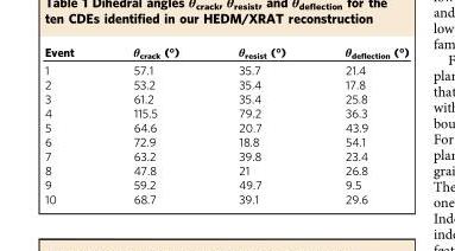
<table><thead><tr><td>Event</td><td>θ<sub>crack</sub> (°)</td><td>θ<sub>resist</sub> (°)</td><td>θ<sub>deflection</sub> (°)</td></tr></thead><tbody><tr><td>1</td><td>57.1</td><td>35.7</td><td>21.4</td></tr><tr><td>2</td><td>53.2</td><td>35.4</td><td>17.8</td></tr><tr><td>3</td><td>61.2</td><td>35.4</td><td>25.8</td></tr><tr><td>4</td><td>115.5</td><td>79.2</td><td>36.3</td></tr><tr><td>5</td><td>64.6</td><td>20.7</td><td>43.9</td></tr><tr><td>6</td><td>72.9</td><td>18.8</td><td>54.1</td></tr><tr><td>7</td><td>63.2</td><td>39.8</td><td>23.4</td></tr><tr><td>8</td><td>47.8</td><td>21</td><td>26.8</td></tr><tr><td>9</td><td>59.2</td><td>49.7</td><td>9.5</td></tr><tr><td>10</td><td>68.7</td><td>39.1</td><td>29.6</td></tr></tbody></table>